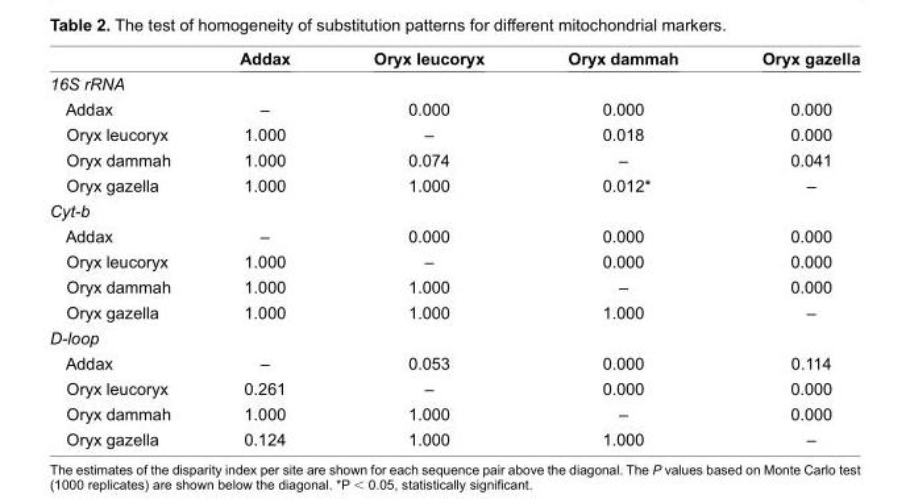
<table><thead><tr><td></td><td>Addax</td><td>Oryx leucoryx</td><td>Oryx dammah</td><td>Oryx gazella</td></tr></thead><tbody><tr><td colspan="5">16S rRNA</td></tr><tr><td>Addax</td><td>–</td><td>0.000</td><td>0.000</td><td>0.000</td></tr><tr><td>Oryx leucoryx</td><td>1.000</td><td>–</td><td>0.018</td><td>0.000</td></tr><tr><td>Oryx dammah</td><td>1.000</td><td>0.074</td><td>–</td><td>0.041</td></tr><tr><td>Oryx gazella</td><td>1.000</td><td>1.000</td><td>0.012*</td><td>–</td></tr><tr><td colspan="5">Cyt-b</td></tr><tr><td>Addax</td><td>–</td><td>0.000</td><td>0.000</td><td>0.000</td></tr><tr><td>Oryx leucoryx</td><td>1.000</td><td>–</td><td>0.000</td><td>0.000</td></tr><tr><td>Oryx dammah</td><td>1.000</td><td>1.000</td><td>–</td><td>0.000</td></tr><tr><td>Oryx gazella</td><td>1.000</td><td>1.000</td><td>1.000</td><td>–</td></tr><tr><td colspan="5">D-loop</td></tr><tr><td>Addax</td><td>–</td><td>0.053</td><td>0.000</td><td>0.114</td></tr><tr><td>Oryx leucoryx</td><td>0.261</td><td>–</td><td>0.000</td><td>0.000</td></tr><tr><td>Oryx dammah</td><td>1.000</td><td>1.000</td><td>–</td><td>0.000</td></tr><tr><td>Oryx gazella</td><td>0.124</td><td>1.000</td><td>1.000</td><td>–</td></tr></tbody></table>